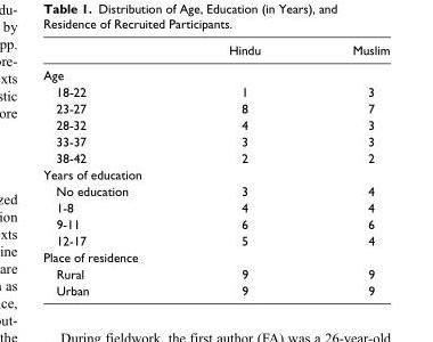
<table><thead><tr><td></td><td>Hindu</td><td>Muslim</td></tr></thead><tbody><tr><td colspan="3">Age</td></tr><tr><td>18-22</td><td>1</td><td>3</td></tr><tr><td>23-27</td><td>8</td><td>7</td></tr><tr><td>28-32</td><td>4</td><td>3</td></tr><tr><td>33-37</td><td>3</td><td>3</td></tr><tr><td>38-42</td><td>2</td><td>2</td></tr><tr><td colspan="3">Years of education</td></tr><tr><td>No education</td><td>3</td><td>4</td></tr><tr><td>1-8</td><td>4</td><td>4</td></tr><tr><td>9-11</td><td>6</td><td>6</td></tr><tr><td>12-17</td><td>5</td><td>4</td></tr><tr><td colspan="3">Place of residence</td></tr><tr><td>Rural</td><td>9</td><td>9</td></tr><tr><td>Urban</td><td>9</td><td>9</td></tr></tbody></table>